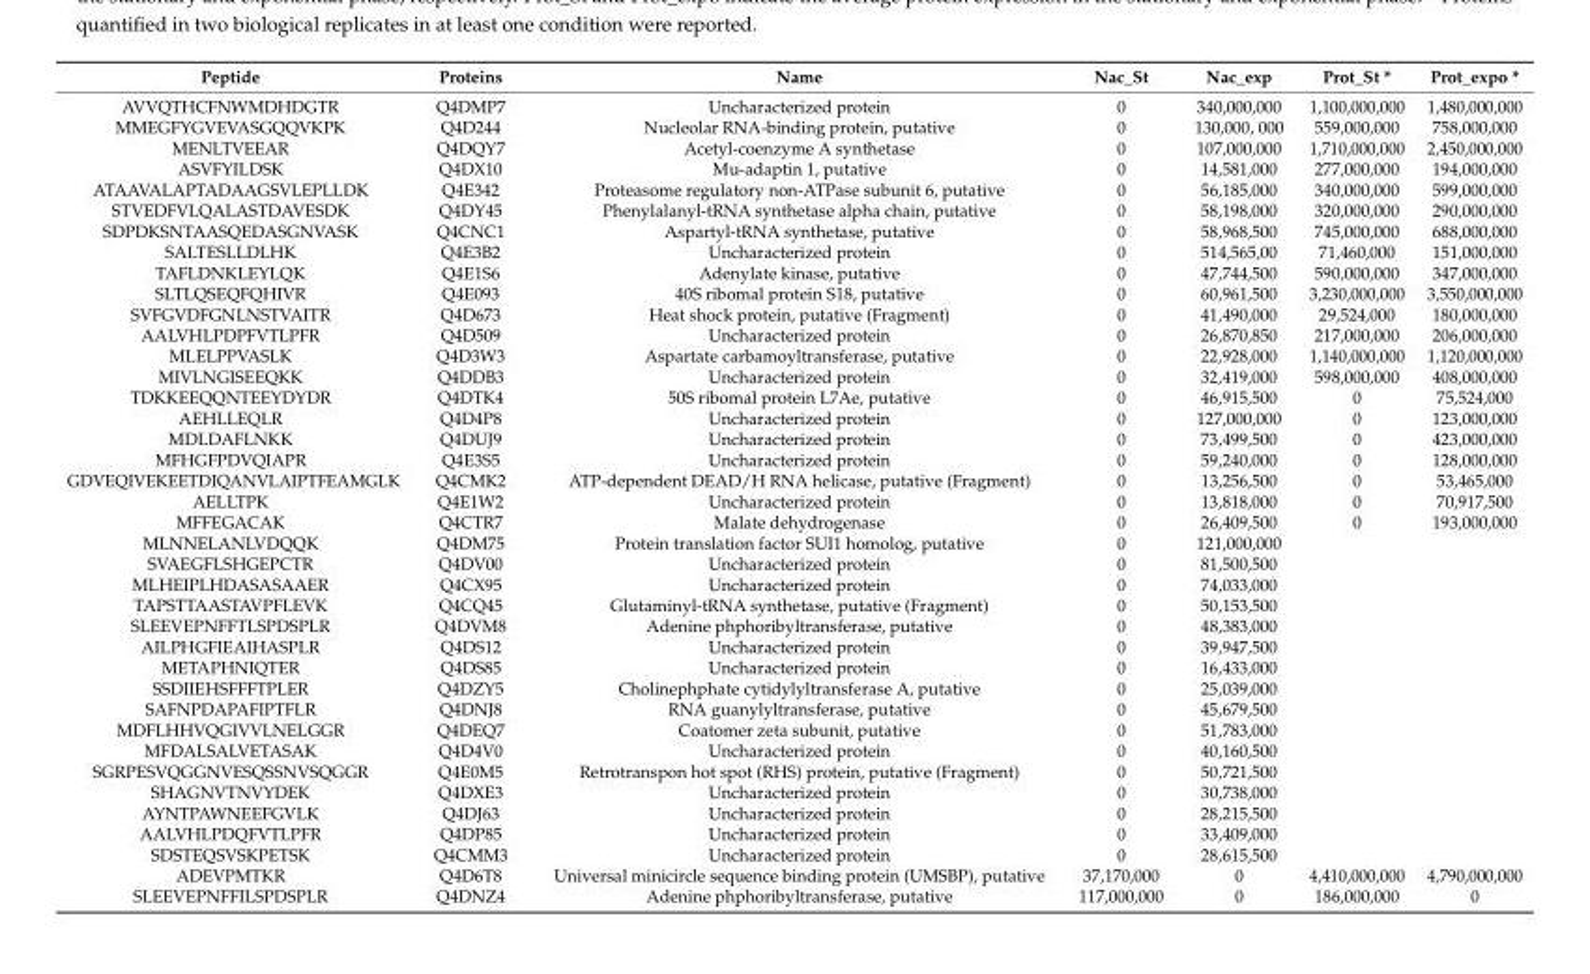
<table><thead><tr><td>Peptide</td><td>Proteins</td><td>Name</td><td>Nac_St</td><td>Nac_exp</td><td>Prot_St *</td><td>Prot_expo *</td></tr></thead><tbody><tr><td>AVVQTHCFNWMDHDGTR</td><td>Q4DMP7</td><td>Uncharacterized protein</td><td>0</td><td>340,000,000</td><td>1,100,000,000</td><td>1,480,000,000</td></tr><tr><td>MMEGFYGVEVASGQQVKPK</td><td>Q4D244</td><td>Nucleolar RNA-binding protein, putative</td><td>0</td><td>130,000, 000</td><td>559,000,000</td><td>758,000,000</td></tr><tr><td>MENLTVEEAR</td><td>Q4DQY7</td><td>Acetyl-coenzyme A synthetase</td><td>0</td><td>107,000,000</td><td>1,710,000,000</td><td>2,450,000,000</td></tr><tr><td>ASVFYILDSK</td><td>Q4DX10</td><td>Mu-adaptin 1, putative</td><td>0</td><td>14,581,000</td><td>277,000,000</td><td>194,000,000</td></tr><tr><td>ATAAVALAPTADAAGSVLEPLLDK</td><td>Q4E342</td><td>Proteasome regulatory non-ATPase subunit 6, putative</td><td>0</td><td>56,185,000</td><td>340,000,000</td><td>599,000,000</td></tr><tr><td>STVEDFVLQALASTDAVESDK</td><td>Q4DY45</td><td>Phenylalanyl-tRNA synthetase alpha chain, putative</td><td>0</td><td>58,198,000</td><td>320,000,000</td><td>290,000,000</td></tr><tr><td>SDPDKSNTAASQEDASGNVASK</td><td>Q4CNC1</td><td>Aspartyl-tRNA synthetase, putative</td><td>0</td><td>58,968,500</td><td>745,000,000</td><td>688,000,000</td></tr><tr><td>SALTESLLDLHK</td><td>Q4E3B2</td><td>Uncharacterized protein</td><td>0</td><td>514,565,00</td><td>71,460,000</td><td>151,000,000</td></tr><tr><td>TAFLDNKLEYLQK</td><td>Q4E1S6</td><td>Adenylate kinase, putative</td><td>0</td><td>47,744,500</td><td>590,000,000</td><td>347,000,000</td></tr><tr><td>SLTLQSEQFQHIVR</td><td>Q4E093</td><td>40S ribomal protein S18, putative</td><td>0</td><td>60,961,500</td><td>3,230,000,000</td><td>3,550,000,000</td></tr><tr><td>SVFGVDFGNLNSTVAITR</td><td>Q4D673</td><td>Heat shock protein, putative (Fragment)</td><td>0</td><td>41,490,000</td><td>29,524,000</td><td>180,000,000</td></tr><tr><td>AALVHLPDPFVTLPFR</td><td>Q4D509</td><td>Uncharacterized protein</td><td>0</td><td>26,870,850</td><td>217,000,000</td><td>206,000,000</td></tr><tr><td>MLELPPVASLK</td><td>Q4D3W3</td><td>Aspartate carbamoyltransferase, putative</td><td>0</td><td>22,928,000</td><td>1,140,000,000</td><td>1,120,000,000</td></tr><tr><td>MIVLNGISEEQKK</td><td>Q4DDB3</td><td>Uncharacterized protein</td><td>0</td><td>32,419,000</td><td>598,000,000</td><td>408,000,000</td></tr><tr><td>TDKKEEQQNTEEYDYDR</td><td>Q4DTK4</td><td>50S ribomal protein L7Ae, putative</td><td>0</td><td>46,915,500</td><td>0</td><td>75,524,000</td></tr><tr><td>AEHLLEQLR</td><td>Q4D4P8</td><td>Uncharacterized protein</td><td>0</td><td>127,000,000</td><td>0</td><td>123,000,000</td></tr><tr><td>MDLDAFLNKK</td><td>Q4DUJ9</td><td>Uncharacterized protein</td><td>0</td><td>73,499,500</td><td>0</td><td>423,000,000</td></tr><tr><td>MFHGFPDVQIAPR</td><td>Q4E3S5</td><td>Uncharacterized protein</td><td>0</td><td>59,240,000</td><td>0</td><td>128,000,000</td></tr><tr><td>GDVEQIVEKEETDIQANVLAIPTFEAMGLK</td><td>Q4CMK2</td><td>ATP-dependent DEAD/H RNA helicase, putative (Fragment)</td><td>0</td><td>13,256,500</td><td>0</td><td>53,465,000</td></tr><tr><td>AELLTPK</td><td>Q4E1W2</td><td>Uncharacterized protein</td><td>0</td><td>13,818,000</td><td>0</td><td>70,917,500</td></tr><tr><td>MFFEGACAK</td><td>Q4CTR7</td><td>Malate dehydrogenase</td><td>0</td><td>26,409,500</td><td>0</td><td>193,000,000</td></tr><tr><td>MLNNELANLVDQQK</td><td>Q4DM75</td><td>Protein translation factor SUI1 homolog, putative</td><td>0</td><td>121,000,000</td><td></td><td></td></tr><tr><td>SVAEGFLSHGEPCTR</td><td>Q4DV00</td><td>Uncharacterized protein</td><td>0</td><td>81,500,500</td><td></td><td></td></tr><tr><td>MLHEIPLHDASASAAER</td><td>Q4CX95</td><td>Uncharacterized protein</td><td>0</td><td>74,033,000</td><td></td><td></td></tr><tr><td>TAPSTTAASTAVPFLEVK</td><td>Q4CQ45</td><td>Glutaminyl-tRNA synthetase, putative (Fragment)</td><td>0</td><td>50,153,500</td><td></td><td></td></tr><tr><td>SLEEVEPNFFTLSPDSPLR</td><td>Q4DVM8</td><td>Adenine phphoribyltransferase, putative</td><td>0</td><td>48,383,000</td><td></td><td></td></tr><tr><td>AILPHGFIEAIHASPLR</td><td>Q4DS12</td><td>Uncharacterized protein</td><td>0</td><td>39,947,500</td><td></td><td></td></tr><tr><td>METAPHNIQTER</td><td>Q4DS85</td><td>Uncharacterized protein</td><td>0</td><td>16,433,000</td><td></td><td></td></tr><tr><td>SSDIIEHSFFFTPLER</td><td>Q4DZY5</td><td>Cholinephphate cytidylyltransferase A, putative</td><td>0</td><td>25,039,000</td><td></td><td></td></tr><tr><td>SAFNPDAPAFIPTFLR</td><td>Q4DNJ8</td><td>RNA guanylyltransferase, putative</td><td>0</td><td>45,679,500</td><td></td><td></td></tr><tr><td>MDFLHHVQGIVVLNELGGR</td><td>Q4DEQ7</td><td>Coatomer zeta subunit, putative</td><td>0</td><td>51,783,000</td><td></td><td></td></tr><tr><td>MFDALSALVETASAK</td><td>Q4D4V0</td><td>Uncharacterized protein</td><td>0</td><td>40,160,500</td><td></td><td></td></tr><tr><td>SGRPESVQGGNVESQSSNVSQGGR</td><td>Q4E0M5</td><td>Retrotranspon hot spot (RHS) protein, putative (Fragment)</td><td>0</td><td>50,721,500</td><td></td><td></td></tr><tr><td>SHAGNVTNVYDEK</td><td>Q4DXE3</td><td>Uncharacterized protein</td><td>0</td><td>30,738,000</td><td></td><td></td></tr><tr><td>AYNTPAWNEEFGVLK</td><td>Q4DJ63</td><td>Uncharacterized protein</td><td>0</td><td>28,215,500</td><td></td><td></td></tr><tr><td>AALVHLPDQFVTLPFR</td><td>Q4DP85</td><td>Uncharacterized protein</td><td>0</td><td>33,409,000</td><td></td><td></td></tr><tr><td>SDSTEQSVSKPETSK</td><td>Q4CMM3</td><td>Uncharacterized protein</td><td>0</td><td>28,615,500</td><td></td><td></td></tr><tr><td>ADEVPMTKR</td><td>Q4D6T8</td><td>Universal minicircle sequence binding protein (UMSBP), putative</td><td>37,170,000</td><td>0</td><td>4,410,000,000</td><td>4,790,000,000</td></tr><tr><td>SLEEVEPNFFILSPDSPLR</td><td>Q4DNZ4</td><td>Adenine phphoribyltransferase, putative</td><td>117,000,000</td><td>0</td><td>186,000,000</td><td>0</td></tr></tbody></table>